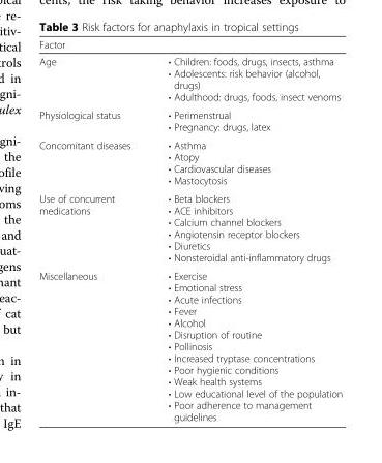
<table><thead><tr><td>Factor</td><td></td></tr></thead><tbody><tr><td>Age</td><td>• Children: foods, drugs, insects, asthma • Adolescents: risk behavior (alcohol, drugs) • Adulthood: drugs, foods, insect venoms</td></tr><tr><td>Physiological status</td><td>• Perimenstrual • Pregnancy: drugs, latex</td></tr><tr><td>Concomitant diseases</td><td>• Asthma • Atopy • Cardiovascular diseases • Mastocytosis</td></tr><tr><td>Use of concurrent medications</td><td>• Beta blockers • ACE inhibitors • Calcium channel blockers • Angiotensin receptor blockers • Diuretics • Nonsteroidal anti-inflammatory drugs</td></tr><tr><td>Miscellaneous</td><td>• Exercise • Emotional stress • Acute infections • Fever • Alcohol • Disruption of routine • Pollinosis • Increased tryptase concentrations • Poor hygienic conditions • Weak health systems • Low educational level of the population • Poor adherence to management guidelines</td></tr></tbody></table>